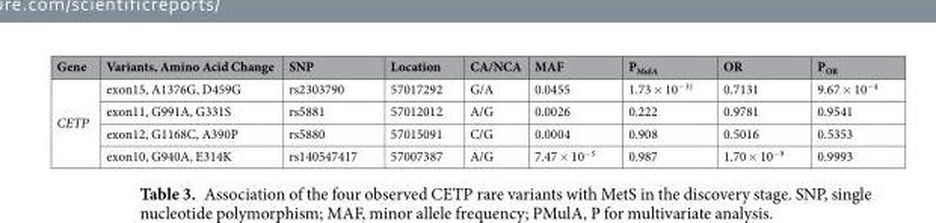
<table><thead><tr><td>Gene</td><td>Variants, Amino Acid Change</td><td>SNP</td><td>Location</td><td>CA/NCA</td><td>MAF</td><td>P<sub>MulA</sub></td><td>OR</td><td>P<sub>OR</sub></td></tr></thead><tbody><tr><td rowspan="4">CETP</td><td>exon15, A1376G, D459G</td><td>rs2303790</td><td>57017292</td><td>G/A</td><td>0.0455</td><td>1.73 × 10<sup>−31</sup></td><td>0.7131</td><td>9.67 × 10<sup>−4</sup></td></tr><tr><td>exon11, G991A, G331S</td><td>rs5881</td><td>57012012</td><td>A/G</td><td>0.0026</td><td>0.222</td><td>0.9781</td><td>0.9541</td></tr><tr><td>exon12, G1168C, A390P</td><td>rs5880</td><td>57015091</td><td>C/G</td><td>0.0004</td><td>0.908</td><td>0.5016</td><td>0.5353</td></tr><tr><td>exon10, G940A, E314K</td><td>rs140547417</td><td>57007387</td><td>A/G</td><td>7.47 × 10<sup>−5</sup></td><td>0.987</td><td>1.70 × 10<sup>−9</sup></td><td>0.9993</td></tr></tbody></table>